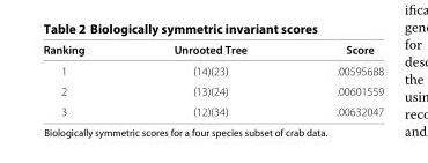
<table><thead><tr><td>Ranking</td><td>Unrooted Tree</td><td>Score</td></tr></thead><tbody><tr><td>1</td><td>(14)(23)</td><td>.00595688</td></tr><tr><td>2</td><td>(13)(24)</td><td>.00601559</td></tr><tr><td>3</td><td>(12)(34)</td><td>.00632047</td></tr></tbody></table>